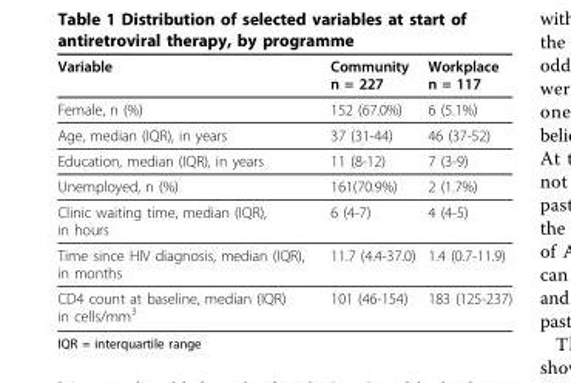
<table><tbody><tr><td>Variable</td><td>Community n = 227</td><td>Workplace n = 117</td></tr><tr><td>Female, n (%)</td><td>152 (67.0%)</td><td>6 (5.1%)</td></tr><tr><td>Age, median (IQR), in years</td><td>37 (31-44)</td><td>46 (37-52)</td></tr><tr><td>Education, median (IQR), in years</td><td>11 (8-12)</td><td>7 (3-9)</td></tr><tr><td>Unemployed, n (%)</td><td>161(70.9%)</td><td>2 (1.7%)</td></tr><tr><td>Clinic waiting time, median (IQR), in hours</td><td>6 (4-7)</td><td>4 (4-5)</td></tr><tr><td>Time since HIV diagnosis, median (IQR), in months</td><td>11.7 (4.4-37.0)</td><td>1.4 (0.7-11.9)</td></tr><tr><td>CD4 count at baseline, median (IQR) in cells/mm<sup>3</sup></td><td>101 (46-154)</td><td>183 (125-237)</td></tr></tbody></table>